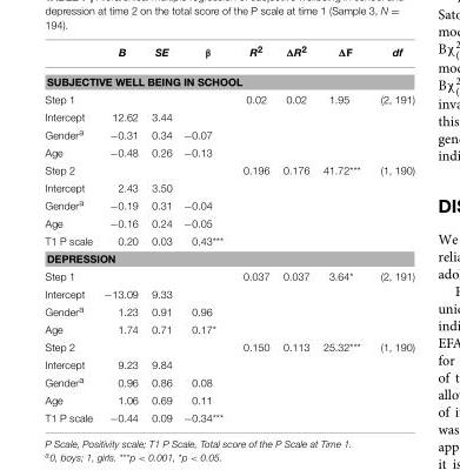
<table><thead><tr><td></td><td>B</td><td>SE</td><td>β</td><td>R<sup>2</sup></td><td>ΔR<sup>2</sup></td><td>ΔF</td><td>df</td></tr></thead><tbody><tr><td colspan="8">SUBJECTIVE WELL BEING IN SCHOOL</td></tr><tr><td>Step 1</td><td></td><td></td><td></td><td>0.02</td><td>0.02</td><td>1.95</td><td>(2, 191)</td></tr><tr><td>Intercept</td><td>12.62</td><td>3.44</td><td></td><td></td><td></td><td></td><td></td></tr><tr><td>Gender<sup>a</sup></td><td>−0.31</td><td>0.34</td><td>−0.07</td><td></td><td></td><td></td><td></td></tr><tr><td>Age</td><td>−0.48</td><td>0.26</td><td>−0.13</td><td></td><td></td><td></td><td></td></tr><tr><td>Step 2</td><td></td><td></td><td></td><td>0.196</td><td>0.176</td><td>41.72***</td><td>(1, 190)</td></tr><tr><td>Intercept</td><td>2.43</td><td>3.50</td><td></td><td></td><td></td><td></td><td></td></tr><tr><td>Gender<sup>a</sup></td><td>−0.19</td><td>0.31</td><td>−0.04</td><td></td><td></td><td></td><td></td></tr><tr><td>Age</td><td>−0.16</td><td>0.24</td><td>−0.05</td><td></td><td></td><td></td><td></td></tr><tr><td>T1 P scale</td><td>0.20</td><td>0.03</td><td>0.43***</td><td></td><td></td><td></td><td></td></tr><tr><td colspan="8">DEPRESSION</td></tr><tr><td>Step 1</td><td></td><td></td><td></td><td>0.037</td><td>0.037</td><td>3.64*</td><td>(2, 191)</td></tr><tr><td>Intercept</td><td>−13.09</td><td>9.33</td><td></td><td></td><td></td><td></td><td></td></tr><tr><td>Gender<sup>a</sup></td><td>1.23</td><td>0.91</td><td>0.96</td><td></td><td></td><td></td><td></td></tr><tr><td>Age</td><td>1.74</td><td>0.71</td><td>0.17*</td><td></td><td></td><td></td><td></td></tr><tr><td>Step 2</td><td></td><td></td><td></td><td>0.150</td><td>0.113</td><td>25.32***</td><td>(1, 190)</td></tr><tr><td>Intercept</td><td>9.23</td><td>9.84</td><td></td><td></td><td></td><td></td><td></td></tr><tr><td>Gender<sup>a</sup></td><td>0.96</td><td>0.86</td><td>0.08</td><td></td><td></td><td></td><td></td></tr><tr><td>Age</td><td>1.06</td><td>0.69</td><td>0.11</td><td></td><td></td><td></td><td></td></tr><tr><td>T1 P scale</td><td>−0.44</td><td>0.09</td><td>−0.34***</td><td></td><td></td><td></td><td></td></tr></tbody></table>